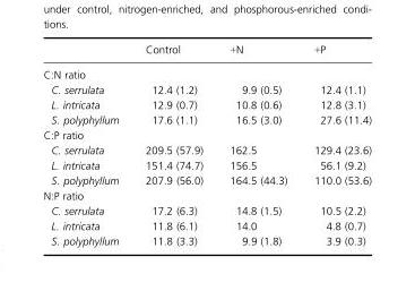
<table><thead><tr><td></td><td>Control</td><td>+N</td><td>+P</td></tr></thead><tbody><tr><td colspan="4">C:N ratio</td></tr><tr><td>C. serrulata</td><td>12.4 (1.2)</td><td>9.9 (0.5)</td><td>12.4 (1.1)</td></tr><tr><td>L. intricata</td><td>12.9 (0.7)</td><td>10.8 (0.6)</td><td>12.8 (3.1)</td></tr><tr><td>S. polyphyllum</td><td>17.6 (1.1)</td><td>16.5 (3.0)</td><td>27.6 (11.4)</td></tr><tr><td colspan="4">C:P ratio</td></tr><tr><td>C. serrulata</td><td>209.5 (57.9)</td><td>162.5</td><td>129.4 (23.6)</td></tr><tr><td>L. intricata</td><td>151.4 (74.7)</td><td>156.5</td><td>56.1 (9.2)</td></tr><tr><td>S. polyphyllum</td><td>207.9 (56.0)</td><td>164.5 (44.3)</td><td>110.0 (53.6)</td></tr><tr><td colspan="4">N:P ratio</td></tr><tr><td>C. serrulata</td><td>17.2 (6.3)</td><td>14.8 (1.5)</td><td>10.5 (2.2)</td></tr><tr><td>L. intricata</td><td>11.8 (6.1)</td><td>14.0</td><td>4.8 (0.7)</td></tr><tr><td>S. polyphyllum</td><td>11.8 (3.3)</td><td>9.9 (1.8)</td><td>3.9 (0.3)</td></tr></tbody></table>